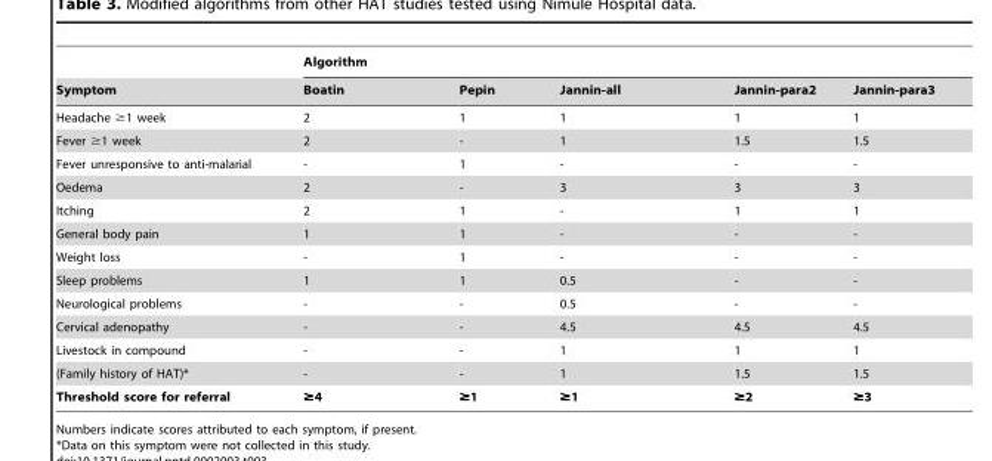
<table><thead><tr><td rowspan="2">Symptom</td><td colspan="5">Algorithm</td></tr><tr><td>Boatin</td><td>Pepin</td><td>Jannin-all</td><td>Jannin-para2</td><td>Jannin-para3</td></tr></thead><tbody><tr><td>Headache ≥1 week</td><td>2</td><td>1</td><td>1</td><td>1</td><td>1</td></tr><tr><td>Fever ≥1 week</td><td>2</td><td>-</td><td>1</td><td>1.5</td><td>1.5</td></tr><tr><td>Fever unresponsive to anti-malarial</td><td>-</td><td>1</td><td>-</td><td>-</td><td>-</td></tr><tr><td>Oedema</td><td>2</td><td>-</td><td>3</td><td>3</td><td>3</td></tr><tr><td>Itching</td><td>2</td><td>1</td><td>-</td><td>1</td><td>1</td></tr><tr><td>General body pain</td><td>1</td><td>1</td><td>-</td><td>-</td><td>-</td></tr><tr><td>Weight loss</td><td>-</td><td>1</td><td>-</td><td>-</td><td>-</td></tr><tr><td>Sleep problems</td><td>1</td><td>1</td><td>0.5</td><td>-</td><td>-</td></tr><tr><td>Neurological problems</td><td>-</td><td>-</td><td>0.5</td><td>-</td><td>-</td></tr><tr><td>Cervical adenopathy</td><td>-</td><td>-</td><td>4.5</td><td>4.5</td><td>4.5</td></tr><tr><td>Livestock in compound</td><td>-</td><td>-</td><td>1</td><td>1</td><td>1</td></tr><tr><td>(Family history of HAT)*</td><td>-</td><td>-</td><td>1</td><td>1.5</td><td>1.5</td></tr><tr><td>Threshold score for referral</td><td>≥4</td><td>≥1</td><td>≥1</td><td>≥2</td><td>≥3</td></tr></tbody></table>